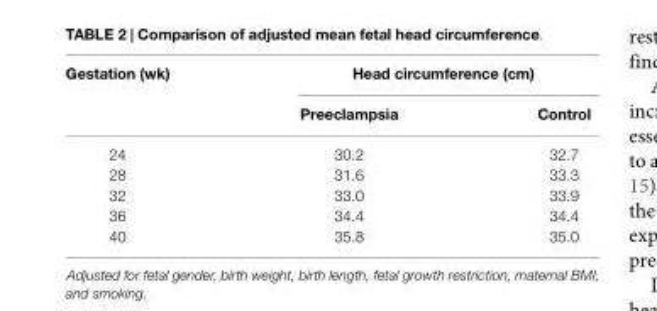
<table><thead><tr><td rowspan="2">Gestation (wk)</td><td colspan="2">Head circumference (cm)</td></tr><tr><td>Preeclampsia</td><td>Control</td></tr></thead><tbody><tr><td>24</td><td>30.2</td><td>32.7</td></tr><tr><td>28</td><td>31.6</td><td>33.3</td></tr><tr><td>32</td><td>33.0</td><td>33.9</td></tr><tr><td>36</td><td>34.4</td><td>34.4</td></tr><tr><td>40</td><td>35.8</td><td>35.0</td></tr></tbody></table>